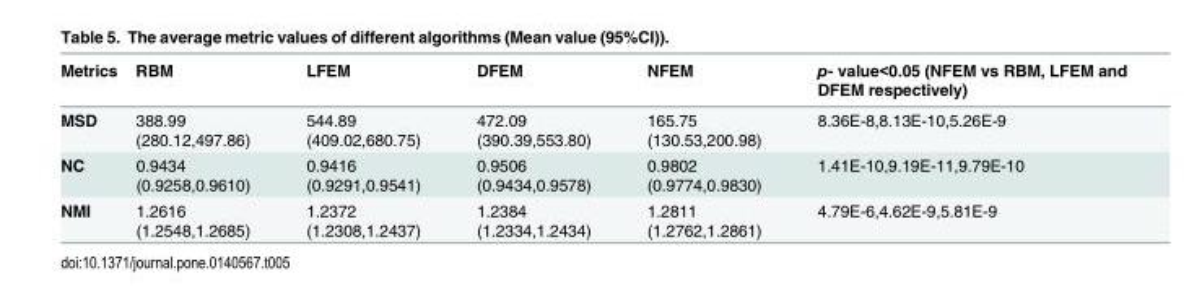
<table><thead><tr><td>Metrics</td><td>RBM</td><td>LFEM</td><td>DFEM</td><td>NFEM</td><td>p- value&lt;0.05 (NFEM vs RBM, LFEM and DFEM respectively)</td></tr></thead><tbody><tr><td>MSD</td><td>388.99 (280.12,497.86)</td><td>544.89 (409.02,680.75)</td><td>472.09 (390.39,553.80)</td><td>165.75 (130.53,200.98)</td><td>8.36E-8,8.13E-10,5.26E-9</td></tr><tr><td>NC</td><td>0.9434 (0.9258,0.9610)</td><td>0.9416 (0.9291,0.9541)</td><td>0.9506 (0.9434,0.9578)</td><td>0.9802 (0.9774,0.9830)</td><td>1.41E-10,9.19E-11,9.79E-10</td></tr><tr><td>NMI</td><td>1.2616 (1.2548,1.2685)</td><td>1.2372 (1.2308,1.2437)</td><td>1.2384 (1.2334,1.2434)</td><td>1.2811 (1.2762,1.2861)</td><td>4.79E-6,4.62E-9,5.81E-9</td></tr></tbody></table>